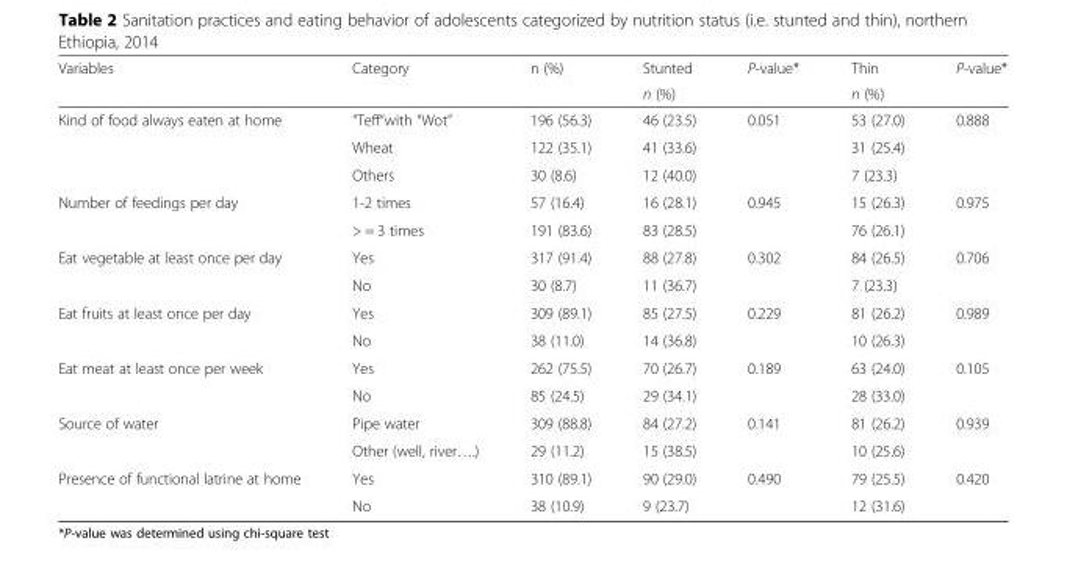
<table><thead><tr><td rowspan="2">Variables</td><td rowspan="2">Category</td><td rowspan="2">n (%)</td><td rowspan="2">Stunted n (%)</td><td rowspan="2">P-value*</td><td rowspan="2">Thin n (%)</td><td rowspan="2">P-value*</td></tr><tr></tr></thead><tbody><tr><td rowspan="3">Kind of food always eaten at home</td><td>“Teff“with “Wot”</td><td>196 (56.3)</td><td>46 (23.5)</td><td>0.051</td><td>53 (27.0)</td><td>0.888</td></tr><tr><td>Wheat</td><td>122 (35.1)</td><td>41 (33.6)</td><td></td><td>31 (25.4)</td><td></td></tr><tr><td>Others</td><td>30 (8.6)</td><td>12 (40.0)</td><td></td><td>7 (23.3)</td><td></td></tr><tr><td rowspan="2">Number of feedings per day</td><td>1-2 times</td><td>57 (16.4)</td><td>16 (28.1)</td><td>0.945</td><td>15 (26.3)</td><td>0.975</td></tr><tr><td>&gt; = 3 times</td><td>191 (83.6)</td><td>83 (28.5)</td><td></td><td>76 (26.1)</td><td></td></tr><tr><td rowspan="2">Eat vegetable at least once per day</td><td>Yes</td><td>317 (91.4)</td><td>88 (27.8)</td><td>0.302</td><td>84 (26.5)</td><td>0.706</td></tr><tr><td>No</td><td>30 (8.7)</td><td>11 (36.7)</td><td></td><td>7 (23.3)</td><td></td></tr><tr><td rowspan="2">Eat fruits at least once per day</td><td>Yes</td><td>309 (89.1)</td><td>85 (27.5)</td><td>0.229</td><td>81 (26.2)</td><td>0.989</td></tr><tr><td>No</td><td>38 (11.0)</td><td>14 (36.8)</td><td></td><td>10 (26.3)</td><td></td></tr><tr><td rowspan="2">Eat meat at least once per week</td><td>Yes</td><td>262 (75.5)</td><td>70 (26.7)</td><td>0.189</td><td>63 (24.0)</td><td>0.105</td></tr><tr><td>No</td><td>85 (24.5)</td><td>29 (34.1)</td><td></td><td>28 (33.0)</td><td></td></tr><tr><td rowspan="2">Source of water</td><td>Pipe water</td><td>309 (88.8)</td><td>84 (27.2)</td><td>0.141</td><td>81 (26.2)</td><td>0.939</td></tr><tr><td>Other (well, river….)</td><td>29 (11.2)</td><td>15 (38.5)</td><td></td><td>10 (25.6)</td><td></td></tr><tr><td rowspan="2">Presence of functional latrine at home</td><td>Yes</td><td>310 (89.1)</td><td>90 (29.0)</td><td>0.490</td><td>79 (25.5)</td><td>0.420</td></tr><tr><td>No</td><td>38 (10.9)</td><td>9 (23.7)</td><td></td><td>12 (31.6)</td><td></td></tr></tbody></table>